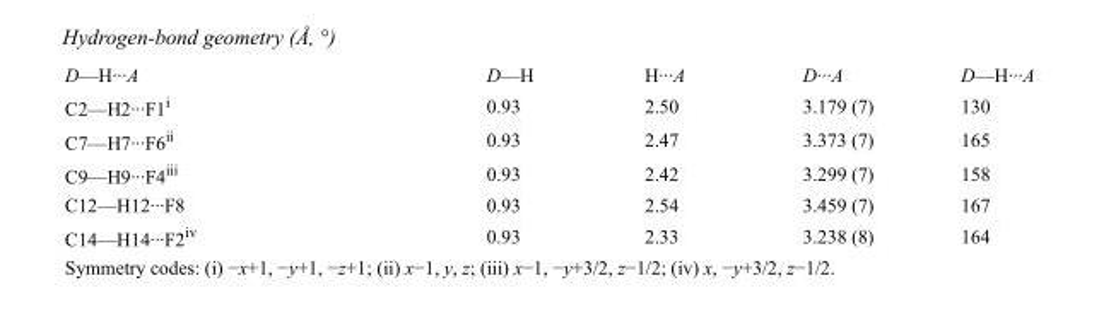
<table><tbody><tr><td>D—H···A</td><td>D—H</td><td>H···A</td><td>D···A</td><td>D—H···A</td></tr><tr><td>C2—H2···F1<sup>i</sup></td><td>0.93</td><td>2.50</td><td>3.179 (7)</td><td>130</td></tr><tr><td>C7—H7···F6<sup>ii</sup></td><td>0.93</td><td>2.47</td><td>3.373 (7)</td><td>165</td></tr><tr><td>C9—H9···F4<sup>iii</sup></td><td>0.93</td><td>2.42</td><td>3.299 (7)</td><td>158</td></tr><tr><td>C12—H12···F8</td><td>0.93</td><td>2.54</td><td>3.459 (7)</td><td>167</td></tr><tr><td>C14—H14···F2<sup>iv</sup></td><td>0.93</td><td>2.33</td><td>3.238 (8)</td><td>164</td></tr></tbody></table>